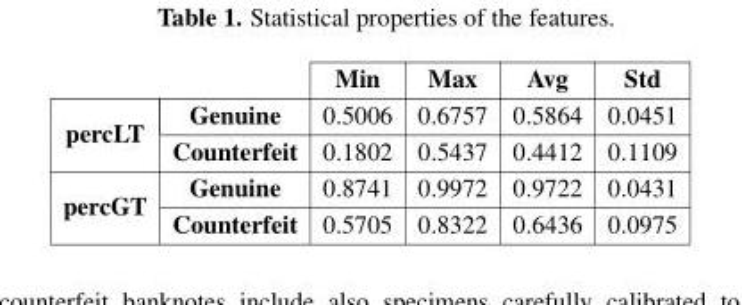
<table><thead><tr><td></td><td></td><td>Min</td><td>Max</td><td>Avg</td><td>Std</td></tr></thead><tbody><tr><td rowspan="2">percLT</td><td>Genuine</td><td>0.5006</td><td>0.6757</td><td>0.5864</td><td>0.0451</td></tr><tr><td>Counterfeit</td><td>0.1802</td><td>0.5437</td><td>0.4412</td><td>0.1109</td></tr><tr><td rowspan="2">percGT</td><td>Genuine</td><td>0.8741</td><td>0.9972</td><td>0.9722</td><td>0.0431</td></tr><tr><td>Counterfeit</td><td>0.5705</td><td>0.8322</td><td>0.6436</td><td>0.0975</td></tr></tbody></table>